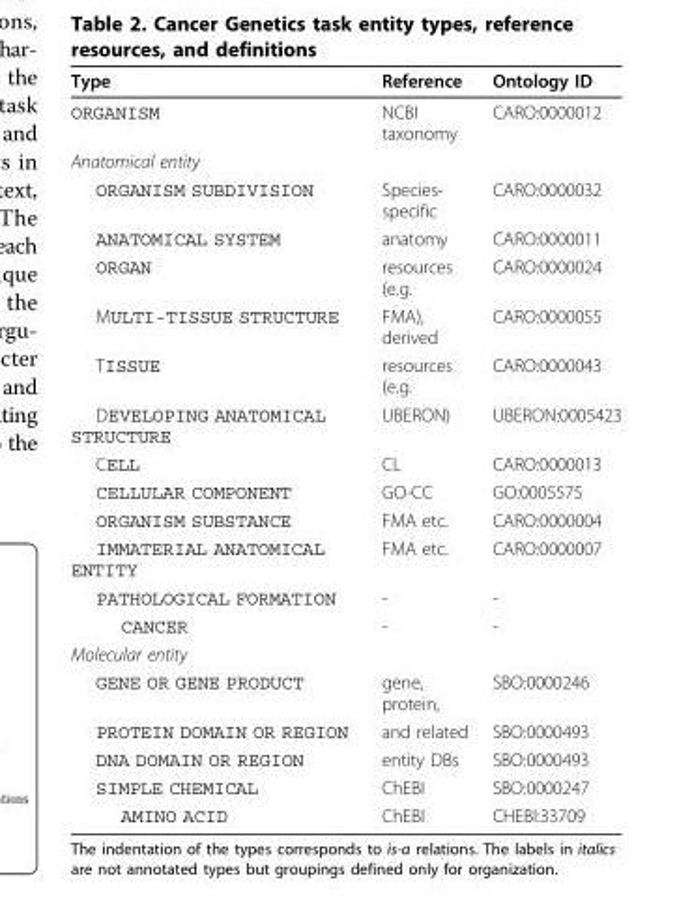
<table><thead><tr><td>Type</td><td>Reference</td><td>Ontology ID</td></tr></thead><tbody><tr><td>ORGANISM</td><td>NCBI taxonomy</td><td>CARO:0000012</td></tr><tr><td colspan="3">Anatomical entity</td></tr><tr><td>ORGANISM SUBDIVISION</td><td>Species- specific</td><td>CARO:0000032</td></tr><tr><td>ANATOMICAL SYSTEM</td><td>anatomy</td><td>CARO:0000011</td></tr><tr><td>ORGAN</td><td>resources (e.g.</td><td>CARO:0000024</td></tr><tr><td>MULTI-TISSUE STRUCTURE</td><td>FMA), derived</td><td>CARO:0000055</td></tr><tr><td>TISSUE</td><td>resources (e.g.</td><td>CARO:0000043</td></tr><tr><td>DEVELOPING ANATOMICAL STRUCTURE</td><td>UBERON)</td><td>UBERON:0005423</td></tr><tr><td>CELL</td><td>CL</td><td>CARO:0000013</td></tr><tr><td>CELLULAR COMPONENT</td><td>GO-CC</td><td>GO:0005575</td></tr><tr><td>ORGANISM SUBSTANCE</td><td>FMA etc.</td><td>CARO:0000004</td></tr><tr><td>IMMATERIAL ANATOMICAL ENTITY</td><td>FMA etc.</td><td>CARO:0000007</td></tr><tr><td>PATHOLOGICAL FORMATION</td><td>-</td><td>-</td></tr><tr><td>CANCER</td><td>-</td><td>-</td></tr><tr><td colspan="3">Molecular entity</td></tr><tr><td>GENE OR GENE PRODUCT</td><td>gene, protein,</td><td>SBO:0000246</td></tr><tr><td>PROTEIN DOMAIN OR REGION</td><td>and related</td><td>SBO:0000493</td></tr><tr><td>DNA DOMAIN OR REGION</td><td>entity DBs</td><td>SBO:0000493</td></tr><tr><td>SIMPLE CHEMICAL</td><td>ChEBI</td><td>SBO:0000247</td></tr><tr><td>AMINO ACID</td><td>ChEBI</td><td>CHEBI:33709</td></tr></tbody></table>